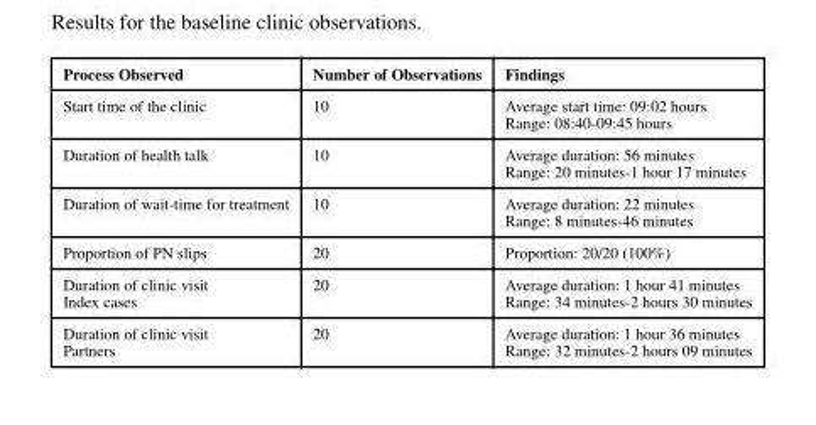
<table><thead><tr><td>Process Observed</td><td>Number of Observations</td><td>Findings</td></tr></thead><tbody><tr><td>Start time of the clinic</td><td>10</td><td>Average start time: 09:02 hours Range: 08:40-09:45 hours</td></tr><tr><td>Duration of health talk</td><td>10</td><td>Average duration: 56 minutes Range: 20 minutes-1 hour 17 minutes</td></tr><tr><td>Duration of wait-time for treatment</td><td>10</td><td>Average duration: 22 minutes Range: 8 minutes-46 minutes</td></tr><tr><td>Proportion of PN slips</td><td>20</td><td>Proportion: 20/20 (100%)</td></tr><tr><td>Duration of clinic visit Index cases</td><td>20</td><td>Average duration: 1 hour 41 minutes Range: 34 minutes-2 hours 30 minutes</td></tr><tr><td>Duration of clinic visit Partners</td><td>20</td><td>Average duration: 1 hour 36 minutes Range: 32 minutes-2 hours 09 minutes</td></tr></tbody></table>